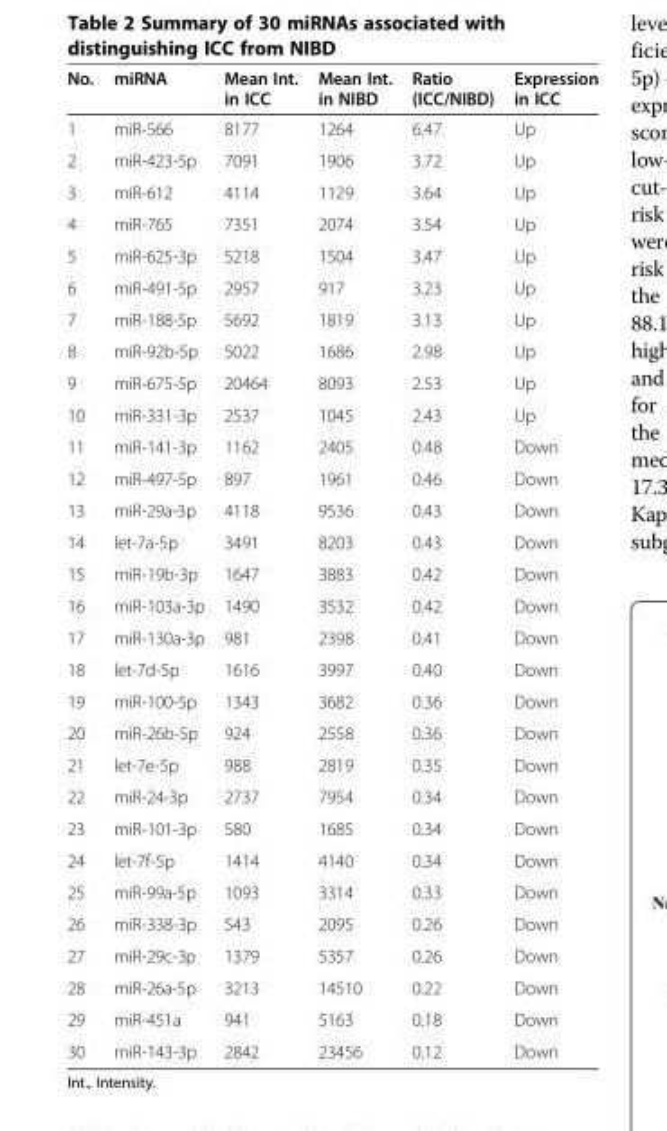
<table><thead><tr><td>No.</td><td>miRNA</td><td>Mean Int. in ICC</td><td>Mean Int. in NIBD</td><td>Ratio (ICC/NIBD)</td><td>Expression in ICC</td></tr></thead><tbody><tr><td>1</td><td>miR-566</td><td>8177</td><td>1264</td><td>6.47</td><td>Up</td></tr><tr><td>2</td><td>miR-423-5p</td><td>7091</td><td>1906</td><td>3.72</td><td>Up</td></tr><tr><td>3</td><td>miR-612</td><td>4114</td><td>1129</td><td>3.64</td><td>Up</td></tr><tr><td>4</td><td>miR-765</td><td>7351</td><td>2074</td><td>3.54</td><td>Up</td></tr><tr><td>5</td><td>miR-625-3p</td><td>5218</td><td>1504</td><td>3.47</td><td>Up</td></tr><tr><td>6</td><td>miR-491-5p</td><td>2957</td><td>917</td><td>3.23</td><td>Up</td></tr><tr><td>7</td><td>miR-188-5p</td><td>5692</td><td>1819</td><td>3.13</td><td>Up</td></tr><tr><td>8</td><td>miR-92b-5p</td><td>5022</td><td>1686</td><td>2.98</td><td>Up</td></tr><tr><td>9</td><td>miR-675-5p</td><td>20464</td><td>8093</td><td>2.53</td><td>Up</td></tr><tr><td>10</td><td>miR-331-3p</td><td>2537</td><td>1045</td><td>2.43</td><td>Up</td></tr><tr><td>11</td><td>miR-141-3p</td><td>1162</td><td>2405</td><td>0.48</td><td>Down</td></tr><tr><td>12</td><td>miR-497-5p</td><td>897</td><td>1961</td><td>0.46</td><td>Down</td></tr><tr><td>13</td><td>miR-29a-3p</td><td>4118</td><td>9536</td><td>0.43</td><td>Down</td></tr><tr><td>14</td><td>let-7a-5p</td><td>3491</td><td>8203</td><td>0.43</td><td>Down</td></tr><tr><td>15</td><td>miR-19b-3p</td><td>1647</td><td>3883</td><td>0.42</td><td>Down</td></tr><tr><td>16</td><td>miR-103a-3p</td><td>1490</td><td>3532</td><td>0.42</td><td>Down</td></tr><tr><td>17</td><td>miR-130a-3p</td><td>981</td><td>2398</td><td>0.41</td><td>Down</td></tr><tr><td>18</td><td>let-7d-5p</td><td>1616</td><td>3997</td><td>0.40</td><td>Down</td></tr><tr><td>19</td><td>miR-100-5p</td><td>1343</td><td>3682</td><td>0.36</td><td>Down</td></tr><tr><td>20</td><td>miR-26b-5p</td><td>924</td><td>2558</td><td>0.36</td><td>Down</td></tr><tr><td>21</td><td>let-7e-5p</td><td>988</td><td>2819</td><td>0.35</td><td>Down</td></tr><tr><td>22</td><td>miR-24-3p</td><td>2737</td><td>7954</td><td>0.34</td><td>Down</td></tr><tr><td>23</td><td>miR-101-3p</td><td>580</td><td>1685</td><td>0.34</td><td>Down</td></tr><tr><td>24</td><td>let-7f-5p</td><td>1414</td><td>4140</td><td>0.34</td><td>Down</td></tr><tr><td>25</td><td>miR-99a-5p</td><td>1093</td><td>3314</td><td>0.33</td><td>Down</td></tr><tr><td>26</td><td>miR-338-3p</td><td>543</td><td>2095</td><td>0.26</td><td>Down</td></tr><tr><td>27</td><td>miR-29c-3p</td><td>1379</td><td>5357</td><td>0.26</td><td>Down</td></tr><tr><td>28</td><td>miR-26a-5p</td><td>3213</td><td>14510</td><td>0.22</td><td>Down</td></tr><tr><td>29</td><td>miR-451a</td><td>941</td><td>5163</td><td>0.18</td><td>Down</td></tr><tr><td>30</td><td>miR-143-3p</td><td>2842</td><td>23456</td><td>0.12</td><td>Down</td></tr></tbody></table>